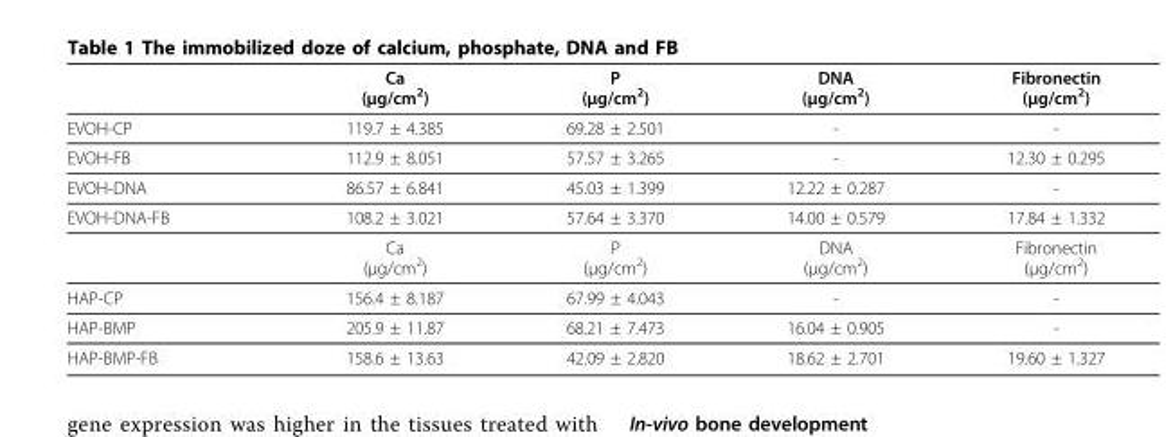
<table><thead><tr><td></td><td>Ca (μg/cm<sup>2</sup>)</td><td>P (μg/cm<sup>2</sup>)</td><td>DNA (μg/cm<sup>2</sup>)</td><td>Fibronectin (μg/cm<sup>2</sup>)</td></tr></thead><tbody><tr><td>EVOH-CP</td><td>119.7 ± 4.385</td><td>69.28 ± 2.501</td><td>-</td><td>-</td></tr><tr><td>EVOH-FB</td><td>112.9 ± 8.051</td><td>57.57 ± 3.265</td><td>-</td><td>12.30 ± 0.295</td></tr><tr><td>EVOH-DNA</td><td>86.57 ± 6.841</td><td>45.03 ± 1.399</td><td>12.22 ± 0.287</td><td>-</td></tr><tr><td rowspan="2">EVOH-DNA-FB</td><td>108.2 ± 3.021</td><td>57.64 ± 3.370</td><td>14.00 ± 0.579</td><td>17.84 ± 1.332</td></tr><tr><td>Ca (μg/cm<sup>2</sup>)</td><td>P (μg/cm<sup>2</sup>)</td><td>DNA (μg/cm<sup>2</sup>)</td><td>Fibronectin (μg/cm<sup>2</sup>)</td></tr><tr><td>HAP-CP</td><td>156.4 ± 8.187</td><td>67.99 ± 4.043</td><td>-</td><td>-</td></tr><tr><td>HAP-BMP</td><td>205.9 ± 11.87</td><td>68.21 ± 7.473</td><td>16.04 ± 0.905</td><td>-</td></tr><tr><td>HAP-BMP-FB</td><td>158.6 ± 13.63</td><td>42.09 ± 2.820</td><td>18.62 ± 2.701</td><td>19.60 ± 1.327</td></tr></tbody></table>